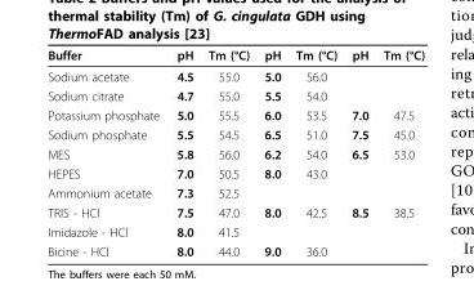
<table><thead><tr><td>Buffer</td><td>pH</td><td>Tm (°C)</td><td>pH</td><td>Tm (°C)</td><td>pH</td><td>Tm (°C)</td></tr></thead><tbody><tr><td>Sodium acetate</td><td>4.5</td><td>55.0</td><td>5.0</td><td>56.0</td><td></td><td></td></tr><tr><td>Sodium citrate</td><td>4.7</td><td>55.0</td><td>5.5</td><td>54.0</td><td></td><td></td></tr><tr><td>Potassium phosphate</td><td>5.0</td><td>55.5</td><td>6.0</td><td>53.5</td><td>7.0</td><td>47.5</td></tr><tr><td>Sodium phosphate</td><td>5.5</td><td>54.5</td><td>6.5</td><td>51.0</td><td>7.5</td><td>45.0</td></tr><tr><td>MES</td><td>5.8</td><td>56.0</td><td>6.2</td><td>54.0</td><td>6.5</td><td>53.0</td></tr><tr><td>HEPES</td><td>7.0</td><td>50.5</td><td>8.0</td><td>43.0</td><td></td><td></td></tr><tr><td>Ammonium acetate</td><td>7.3</td><td>52.5</td><td></td><td></td><td></td><td></td></tr><tr><td>TRIS - HCl</td><td>7.5</td><td>47.0</td><td>8.0</td><td>42.5</td><td>8.5</td><td>38.5</td></tr><tr><td>Imidazole - HCl</td><td>8.0</td><td>41.5</td><td></td><td></td><td></td><td></td></tr><tr><td>Bicine - HCl</td><td>8.0</td><td>44.0</td><td>9.0</td><td>36.0</td><td></td><td></td></tr></tbody></table>